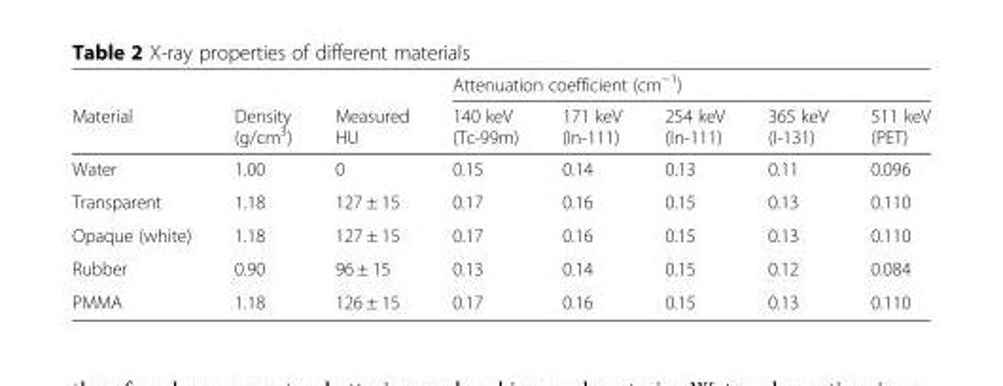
<table><thead><tr><td rowspan="2">Material</td><td rowspan="2">Density (g/cm<sup>3</sup>)</td><td rowspan="2">Measured HU</td><td colspan="5">Attenuation coefficient (cm<sup>−1</sup>)</td></tr><tr><td>140 keV (Tc-99m)</td><td>171 keV (In-111)</td><td>254 keV (In-111)</td><td>365 keV (I-131)</td><td>511 keV (PET)</td></tr></thead><tbody><tr><td>Water</td><td>1.00</td><td>0</td><td>0.15</td><td>0.14</td><td>0.13</td><td>0.11</td><td>0.096</td></tr><tr><td>Transparent</td><td>1.18</td><td>127 ± 15</td><td>0.17</td><td>0.16</td><td>0.15</td><td>0.13</td><td>0.110</td></tr><tr><td>Opaque (white)</td><td>1.18</td><td>127 ± 15</td><td>0.17</td><td>0.16</td><td>0.15</td><td>0.13</td><td>0.110</td></tr><tr><td>Rubber</td><td>0.90</td><td>96 ± 15</td><td>0.13</td><td>0.14</td><td>0.15</td><td>0.12</td><td>0.084</td></tr><tr><td>PMMA</td><td>1.18</td><td>126 ± 15</td><td>0.17</td><td>0.16</td><td>0.15</td><td>0.13</td><td>0.110</td></tr></tbody></table>